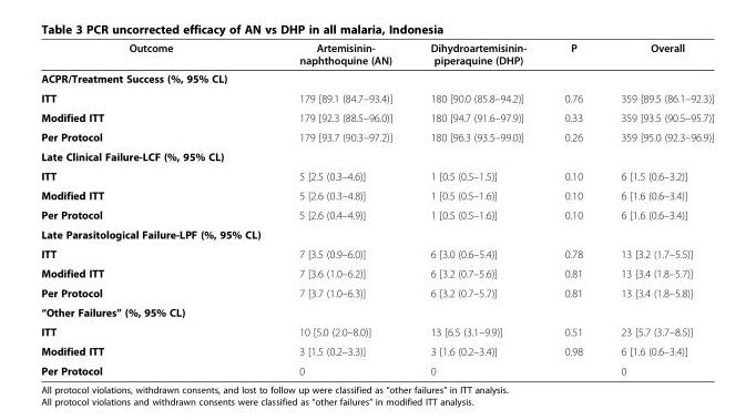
<table><thead><tr><td>Outcome</td><td>Artemisinin- naphthoquine (AN)</td><td>Dihydroartemisinin- piperaquine (DHP)</td><td>P</td><td>Overall</td></tr></thead><tbody><tr><td colspan="5">ACPR/Treatment Success (%, 95% CL)</td></tr><tr><td>ITT</td><td>179 [89.1 (84.7–93.4)]</td><td>180 [90.0 (85.8–94.2)]</td><td>0.76</td><td>359 [89.5 (86.1–92.3)]</td></tr><tr><td>Modified ITT</td><td>179 [92.3 (88.5–96.0)]</td><td>180 [94.7 (91.6–97.9)]</td><td>0.33</td><td>359 [93.5 (90.5–95.7)]</td></tr><tr><td>Per Protocol</td><td>179 [93.7 (90.3–97.2)]</td><td>180 [96.3 (93.5–99.0)]</td><td>0.26</td><td>359 [95.0 (92.3–96.9)]</td></tr><tr><td colspan="5">Late Clinical Failure-LCF (%, 95% CL)</td></tr><tr><td>ITT</td><td>5 [2.5 (0.3–4.6)]</td><td>1 [0.5 (0.5–1.5)]</td><td>0.10</td><td>6 [1.5 (0.6–3.2)]</td></tr><tr><td>Modified ITT</td><td>5 [2.6 (0.3–4.8)]</td><td>1 [0.5 (0.5–1.6)]</td><td>0.10</td><td>6 [1.6 (0.6–3.4)]</td></tr><tr><td>Per Protocol</td><td>5 [2.6 (0.4–4.9)]</td><td>1 [0.5 (0.5–1.6)]</td><td>0.10</td><td>6 [1.6 (0.6–3.4)]</td></tr><tr><td colspan="5">Late Parasitological Failure-LPF (%, 95% CL)</td></tr><tr><td>ITT</td><td>7 [3.5 (0.9–6.0)]</td><td>6 [3.0 (0.6–5.4)]</td><td>0.78</td><td>13 [3.2 (1.7–5.5)]</td></tr><tr><td>Modified ITT</td><td>7 [3.6 (1.0–6.2)]</td><td>6 [3.2 (0.7–5.6)]</td><td>0.81</td><td>13 [3.4 (1.8–5.7)]</td></tr><tr><td>Per Protocol</td><td>7 [3.7 (1.0–6.3)]</td><td>6 [3.2 (0.7–5.7)]</td><td>0.81</td><td>13 [3.4 (1.8–5.8)]</td></tr><tr><td colspan="5">“Other Failures” (%, 95% CL)</td></tr><tr><td>ITT</td><td>10 [5.0 (2.0–8.0)]</td><td>13 [6.5 (3.1–9.9)]</td><td>0.51</td><td>23 [5.7 (3.7–8.5)]</td></tr><tr><td>Modified ITT</td><td>3 [1.5 (0.2–3.3)]</td><td>3 [1.6 (0.2–3.4)]</td><td>0.98</td><td>6 [1.6 (0.6–3.4)]</td></tr><tr><td>Per Protocol</td><td>0</td><td>0</td><td></td><td>0</td></tr></tbody></table>